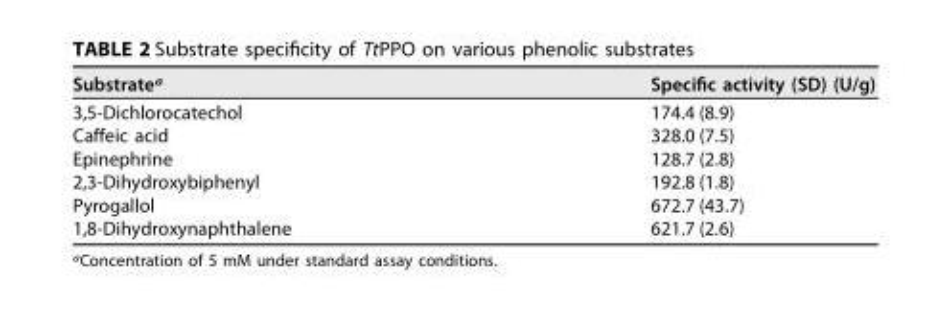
<table><thead><tr><td>Substrate<sup>a</sup></td><td>Specific activity (SD) (U/g)</td></tr></thead><tbody><tr><td>3,5-Dichlorocatechol</td><td>174.4 (8.9)</td></tr><tr><td>Caffeic acid</td><td>328.0 (7.5)</td></tr><tr><td>Epinephrine</td><td>128.7 (2.8)</td></tr><tr><td>2,3-Dihydroxybiphenyl</td><td>192.8 (1.8)</td></tr><tr><td>Pyrogallol</td><td>672.7 (43.7)</td></tr><tr><td>1,8-Dihydroxynaphthalene</td><td>621.7 (2.6)</td></tr></tbody></table>